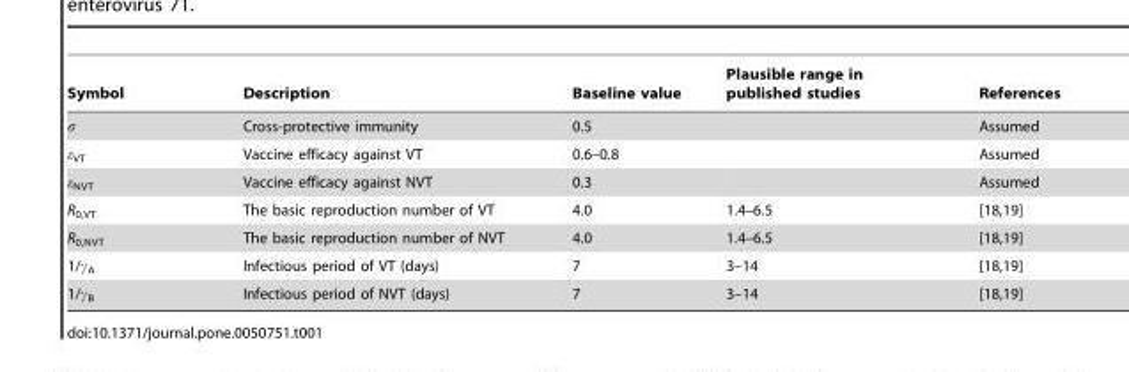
<table><thead><tr><td>Symbol</td><td>Description</td><td>Baseline value</td><td>Plausible range in published studies</td><td>References</td></tr></thead><tbody><tr><td>σ</td><td>Cross-protective immunity</td><td>0.5</td><td></td><td>Assumed</td></tr><tr><td>ε<sub>VT</sub></td><td>Vaccine efficacy against VT</td><td>0.6–0.8</td><td></td><td>Assumed</td></tr><tr><td>ε<sub>NVT</sub></td><td>Vaccine efficacy against NVT</td><td>0.3</td><td></td><td>Assumed</td></tr><tr><td>R<sub>0,VT</sub></td><td>The basic reproduction number of VT</td><td>4.0</td><td>1.4–6.5</td><td>[18,19]</td></tr><tr><td>R<sub>0,NVT</sub></td><td>The basic reproduction number of NVT</td><td>4.0</td><td>1.4–6.5</td><td>[18,19]</td></tr><tr><td>1/γ<sub>A</sub></td><td>Infectious period of VT (days)</td><td>7</td><td>3–14</td><td>[18,19]</td></tr><tr><td>1/γ<sub>B</sub></td><td>Infectious period of NVT (days)</td><td>7</td><td>3–14</td><td>[18,19]</td></tr></tbody></table>